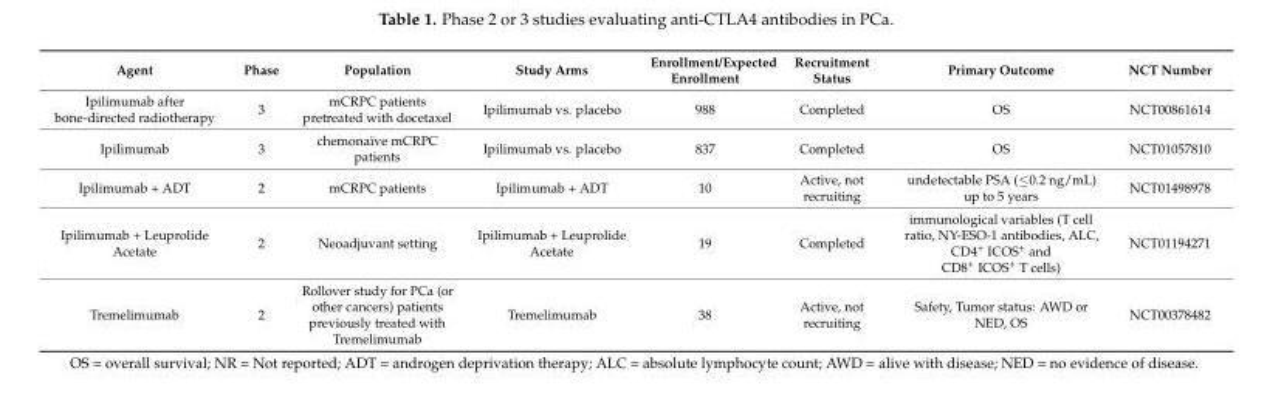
<table><thead><tr><td>Agent</td><td>Phase</td><td>Population</td><td>Study Arms</td><td>Enrollment/Expected Enrollment</td><td>Recruitment Status</td><td>Primary Outcome</td><td>NCT Number</td></tr></thead><tbody><tr><td>Ipilimumab after bone-directed radiotherapy</td><td>3</td><td>mCRPC patients pretreated with docetaxel</td><td>Ipilimumab vs. placebo</td><td>988</td><td>Completed</td><td>OS</td><td>NCT00861614</td></tr><tr><td>Ipilimumab</td><td>3</td><td>chemonaïve mCRPC patients</td><td>Ipilimumab vs. placebo</td><td>837</td><td>Completed</td><td>OS</td><td>NCT01057810</td></tr><tr><td>Ipilimumab + ADT</td><td>2</td><td>mCRPC patients</td><td>Ipilimumab + ADT</td><td>10</td><td>Active, not recruiting</td><td>undetectable PSA (≤0.2 ng/mL) up to 5 years</td><td>NCT01498978</td></tr><tr><td>Ipilimumab + Leuprolide Acetate</td><td>2</td><td>Neoadjuvant setting</td><td>Ipilimumab + Leuprolide Acetate</td><td>19</td><td>Completed</td><td>immunological variables (T cell ratio, NY-ESO-1 antibodies, ALC, CD4<sup>+</sup> ICOS<sup>+</sup> and CD8<sup>+</sup> ICOS<sup>+</sup> T cells)</td><td>NCT01194271</td></tr><tr><td>Tremelimumab</td><td>2</td><td>Rollover study for PCa (or other cancers) patients previously treated with Tremelimumab</td><td>Tremelimumab</td><td>38</td><td>Active, not recruiting</td><td>Safety, Tumor status: AWD or NED, OS</td><td>NCT00378482</td></tr></tbody></table>